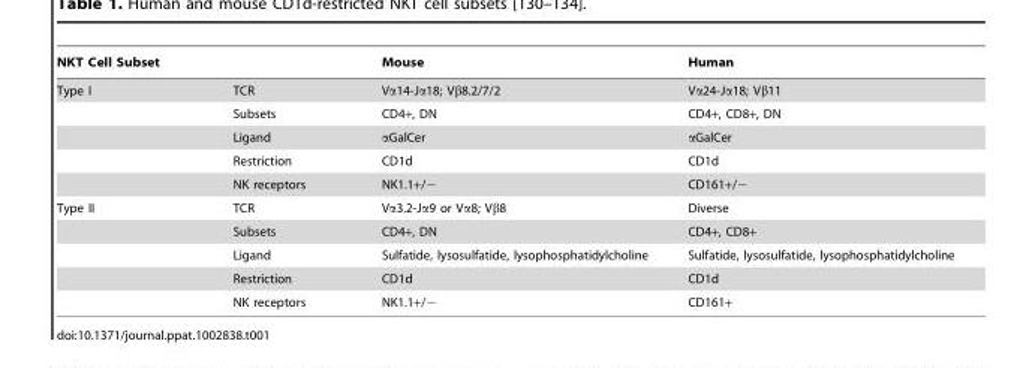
<table><thead><tr><td>NKT Cell Subset</td><td></td><td>Mouse</td><td>Human</td></tr></thead><tbody><tr><td rowspan="5">Type I</td><td>TCR</td><td>Vα14-Jα18; Vβ8.2/7/2</td><td>Vα24-Jα18; Vβ11</td></tr><tr><td>Subsets</td><td>CD4+, DN</td><td>CD4+, CD8+, DN</td></tr><tr><td>Ligand</td><td>αGalCer</td><td>αGalCer</td></tr><tr><td>Restriction</td><td>CD1d</td><td>CD1d</td></tr><tr><td>NK receptors</td><td>NK1.1+/−</td><td>CD161+/−</td></tr><tr><td rowspan="5">Type II</td><td>TCR</td><td>Vα3.2-Jα9 or Vα8; Vβ8</td><td>Diverse</td></tr><tr><td>Subsets</td><td>CD4+, DN</td><td>CD4+, CD8+</td></tr><tr><td>Ligand</td><td>Sulfatide, lysosulfatide, lysophosphatidylcholine</td><td>Sulfatide, lysosulfatide, lysophosphatidylcholine</td></tr><tr><td>Restriction</td><td>CD1d</td><td>CD1d</td></tr><tr><td>NK receptors</td><td>NK1.1+/−</td><td>CD161+</td></tr></tbody></table>